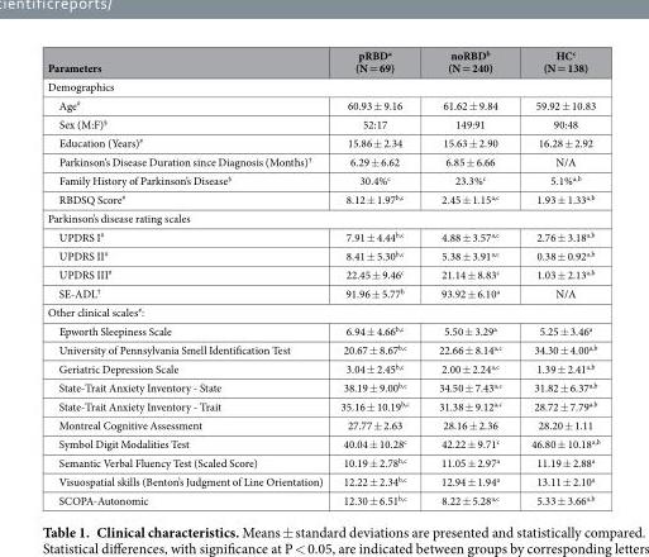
<table><thead><tr><td>Parameters</td><td>pRBD<sup>a</sup> (N = 69)</td><td>noRBD<sup>b</sup> (N = 240)</td><td>HC<sup>c</sup> (N = 138)</td></tr></thead><tbody><tr><td colspan="4">Demographics</td></tr><tr><td>Age<sup>#</sup></td><td>60.93 ± 9.16</td><td>61.62 ± 9.84</td><td>59.92 ± 10.83</td></tr><tr><td>Sex (M:F)<sup>§</sup></td><td>52:17</td><td>149:91</td><td>90:48</td></tr><tr><td>Education (Years)<sup>#</sup></td><td>15.86 ± 2.34</td><td>15.63 ± 2.90</td><td>16.28 ± 2.92</td></tr><tr><td>Parkinson’s Disease Duration since Diagnosis (Months)<sup>†</sup></td><td>6.29 ± 6.62</td><td>6.85 ± 6.66</td><td>N/A</td></tr><tr><td>Family History of Parkinson’s Disease<sup>§</sup></td><td>30.4%<sup>c</sup></td><td>23.3%<sup>c</sup></td><td>5.1%<sup>a,b</sup></td></tr><tr><td>RBDSQ Score<sup>#</sup></td><td>8.12 ± 1.97<sup>b,c</sup></td><td>2.45 ± 1.15<sup>a,c</sup></td><td>1.93 ± 1.33<sup>a,b</sup></td></tr><tr><td colspan="4">Parkinson’s disease rating scales</td></tr><tr><td>UPDRS I<sup>#</sup></td><td>7.91 ± 4.44<sup>b,c</sup></td><td>4.88 ± 3.57<sup>a,c</sup></td><td>2.76 ± 3.18<sup>a,b</sup></td></tr><tr><td>UPDRS II<sup>#</sup></td><td>8.41 ± 5.30<sup>b,c</sup></td><td>5.38 ± 3.91<sup>a,c</sup></td><td>0.38 ± 0.92<sup>a,b</sup></td></tr><tr><td>UPDRS III<sup>#</sup></td><td>22.45 ± 9.46<sup>c</sup></td><td>21.14 ± 8.83<sup>c</sup></td><td>1.03 ± 2.13<sup>a,b</sup></td></tr><tr><td>SE-ADL<sup>†</sup></td><td>91.96 ± 5.77<sup>b</sup></td><td>93.92 ± 6.10<sup>a</sup></td><td>N/A</td></tr><tr><td colspan="4">Other clinical scales<sup>#</sup>:</td></tr><tr><td>Epworth Sleepiness Scale</td><td>6.94 ± 4.66<sup>b,c</sup></td><td>5.50 ± 3.29<sup>a</sup></td><td>5.25 ± 3.46<sup>a</sup></td></tr><tr><td>University of Pennsylvania Smell Identification Test</td><td>20.67 ± 8.67<sup>b,c</sup></td><td>22.66 ± 8.14<sup>a,c</sup></td><td>34.30 ± 4.00<sup>a,b</sup></td></tr><tr><td>Geriatric Depression Scale</td><td>3.04 ± 2.45<sup>b,c</sup></td><td>2.00 ± 2.24<sup>a,c</sup></td><td>1.39 ± 2.41<sup>a,b</sup></td></tr><tr><td>State-Trait Anxiety Inventory - State</td><td>38.19 ± 9.00<sup>b,c</sup></td><td>34.50 ± 7.43<sup>a,c</sup></td><td>31.82 ± 6.37<sup>a,b</sup></td></tr><tr><td>State-Trait Anxiety Inventory - Trait</td><td>35.16 ± 10.19<sup>b,c</sup></td><td>31.38 ± 9.12<sup>a,c</sup></td><td>28.72 ± 7.79<sup>a,b</sup></td></tr><tr><td>Montreal Cognitive Assessment</td><td>27.77 ± 2.63</td><td>28.16 ± 2.36</td><td>28.20 ± 1.11</td></tr><tr><td>Symbol Digit Modalities Test</td><td>40.04 ± 10.28<sup>c</sup></td><td>42.22 ± 9.71<sup>c</sup></td><td>46.80 ± 10.18<sup>a,b</sup></td></tr><tr><td>Semantic Verbal Fluency Test (Scaled Score)</td><td>10.19 ± 2.78<sup>b,c</sup></td><td>11.05 ± 2.97<sup>a</sup></td><td>11.19 ± 2.88<sup>a</sup></td></tr><tr><td>Visuospatial skills (Benton’s Judgment of Line Orientation)</td><td>12.22 ± 2.34<sup>b,c</sup></td><td>12.94 ± 1.94<sup>a</sup></td><td>13.11 ± 2.10<sup>a</sup></td></tr><tr><td>SCOPA-Autonomic</td><td>12.30 ± 6.51<sup>b,c</sup></td><td>8.22 ± 5.28<sup>a,c</sup></td><td>5.33 ± 3.66<sup>a,b</sup></td></tr></tbody></table>